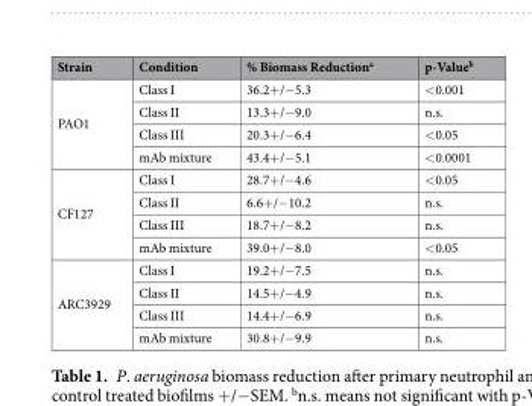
<table><thead><tr><td>Strain</td><td>Condition</td><td>% Biomass Reduction<sup>a</sup></td><td>p-Value<sup>b</sup></td></tr></thead><tbody><tr><td rowspan="4">PAO1</td><td>Class I</td><td>36.2+/−5.3</td><td>&lt;0.001</td></tr><tr><td>Class II</td><td>13.3+/−9.0</td><td>n.s.</td></tr><tr><td>Class III</td><td>20.3+/−6.4</td><td>&lt;0.05</td></tr><tr><td>mAb mixture</td><td>43.4+/−5.1</td><td>&lt;0.0001</td></tr><tr><td rowspan="4">CF127</td><td>Class I</td><td>28.7+/−4.6</td><td>&lt;0.05</td></tr><tr><td>Class II</td><td>6.6+/−10.2</td><td>n.s.</td></tr><tr><td>Class III</td><td>18.7+/−8.2</td><td>n.s.</td></tr><tr><td>mAb mixture</td><td>39.0+/−8.0</td><td>&lt;0.05</td></tr><tr><td rowspan="4">ARC3929</td><td>Class I</td><td>19.2+/−7.5</td><td>n.s.</td></tr><tr><td>Class II</td><td>14.5+/−4.9</td><td>n.s.</td></tr><tr><td>Class III</td><td>14.4+/−6.9</td><td>n.s.</td></tr><tr><td>mAb mixture</td><td>30.8+/−9.9</td><td>n.s.</td></tr></tbody></table>